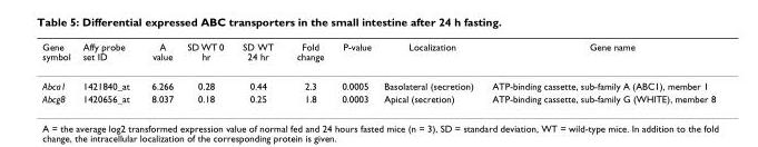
<table><thead><tr><td>Gene symbol</td><td>Affy probe set ID</td><td>A value</td><td>SD WT 0 hr</td><td>SD WT 24 hr</td><td>Fold change</td><td>P-value</td><td>Localization</td><td>Gene name</td></tr></thead><tbody><tr><td>Abca1</td><td>1421840_at</td><td>6.266</td><td>0.28</td><td>0.44</td><td>2.3</td><td>0.0005</td><td>Basolateral (secretion)</td><td>ATP-binding cassette, sub-family A (ABC1), member 1</td></tr><tr><td>Abcg8</td><td>1420656_at</td><td>8.037</td><td>0.18</td><td>0.25</td><td>1.8</td><td>0.0003</td><td>Apical (secretion)</td><td>ATP-binding cassette, sub-family G (WHITE), member 8</td></tr></tbody></table>